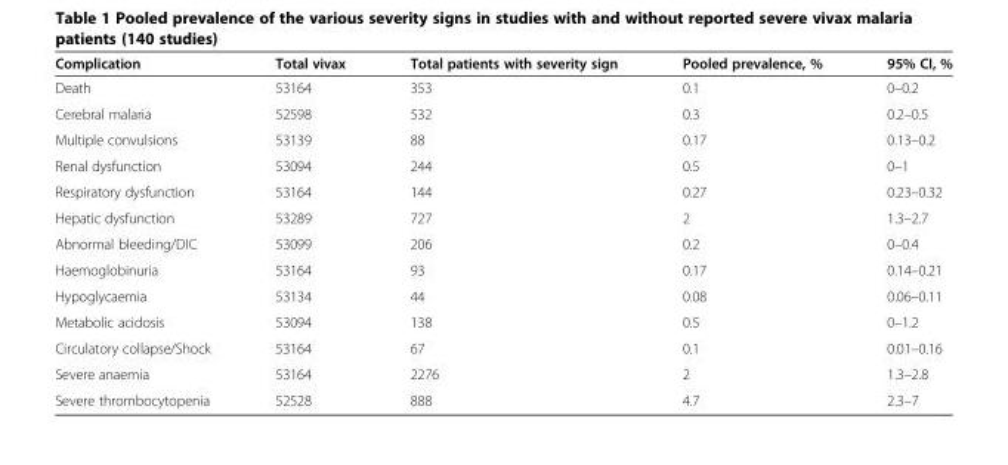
<table><thead><tr><td>Complication</td><td>Total vivax</td><td>Total patients with severity sign</td><td>Pooled prevalence, %</td><td>95% CI, %</td></tr></thead><tbody><tr><td>Death</td><td>53164</td><td>353</td><td>0.1</td><td>0–0.2</td></tr><tr><td>Cerebral malaria</td><td>52598</td><td>532</td><td>0.3</td><td>0.2–0.5</td></tr><tr><td>Multiple convulsions</td><td>53139</td><td>88</td><td>0.17</td><td>0.13–0.2</td></tr><tr><td>Renal dysfunction</td><td>53094</td><td>244</td><td>0.5</td><td>0–1</td></tr><tr><td>Respiratory dysfunction</td><td>53164</td><td>144</td><td>0.27</td><td>0.23–0.32</td></tr><tr><td>Hepatic dysfunction</td><td>53289</td><td>727</td><td>2</td><td>1.3–2.7</td></tr><tr><td>Abnormal bleeding/DIC</td><td>53099</td><td>206</td><td>0.2</td><td>0–0.4</td></tr><tr><td>Haemoglobinuria</td><td>53164</td><td>93</td><td>0.17</td><td>0.14–0.21</td></tr><tr><td>Hypoglycaemia</td><td>53134</td><td>44</td><td>0.08</td><td>0.06–0.11</td></tr><tr><td>Metabolic acidosis</td><td>53094</td><td>138</td><td>0.5</td><td>0–1.2</td></tr><tr><td>Circulatory collapse/Shock</td><td>53164</td><td>67</td><td>0.1</td><td>0.01–0.16</td></tr><tr><td>Severe anaemia</td><td>53164</td><td>2276</td><td>2</td><td>1.3–2.8</td></tr><tr><td>Severe thrombocytopenia</td><td>52528</td><td>888</td><td>4.7</td><td>2.3–7</td></tr></tbody></table>